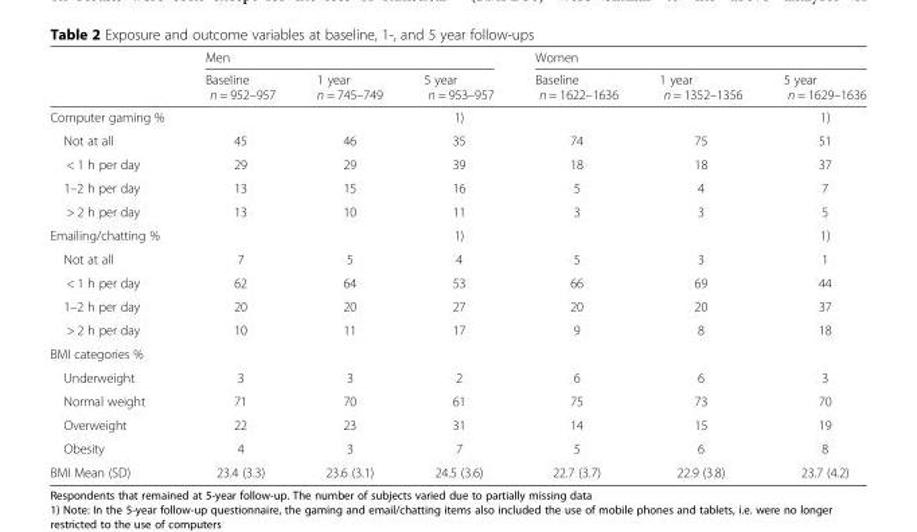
<table><thead><tr><td rowspan="2"></td><td colspan="3">Men</td><td colspan="3">Women</td></tr><tr><td>Baseline n = 952–957</td><td>1 year n = 745–749</td><td>5 year n = 953–957</td><td>Baseline n = 1622–1636</td><td>1 year n = 1352–1356</td><td>5 year n = 1629–1636</td></tr></thead><tbody><tr><td>Computer gaming %</td><td></td><td></td><td>1)</td><td></td><td></td><td>1)</td></tr><tr><td>Not at all</td><td>45</td><td>46</td><td>35</td><td>74</td><td>75</td><td>51</td></tr><tr><td>&lt; 1 h per day</td><td>29</td><td>29</td><td>39</td><td>18</td><td>18</td><td>37</td></tr><tr><td>1–2 h per day</td><td>13</td><td>15</td><td>16</td><td>5</td><td>4</td><td>7</td></tr><tr><td>&gt; 2 h per day</td><td>13</td><td>10</td><td>11</td><td>3</td><td>3</td><td>5</td></tr><tr><td>Emailing/chatting %</td><td></td><td></td><td>1)</td><td></td><td></td><td>1)</td></tr><tr><td>Not at all</td><td>7</td><td>5</td><td>4</td><td>5</td><td>3</td><td>1</td></tr><tr><td>&lt; 1 h per day</td><td>62</td><td>64</td><td>53</td><td>66</td><td>69</td><td>44</td></tr><tr><td>1–2 h per day</td><td>20</td><td>20</td><td>27</td><td>20</td><td>20</td><td>37</td></tr><tr><td>&gt; 2 h per day</td><td>10</td><td>11</td><td>17</td><td>9</td><td>8</td><td>18</td></tr><tr><td colspan="7">BMI categories %</td></tr><tr><td>Underweight</td><td>3</td><td>3</td><td>2</td><td>6</td><td>6</td><td>3</td></tr><tr><td>Normal weight</td><td>71</td><td>70</td><td>61</td><td>75</td><td>73</td><td>70</td></tr><tr><td>Overweight</td><td>22</td><td>23</td><td>31</td><td>14</td><td>15</td><td>19</td></tr><tr><td>Obesity</td><td>4</td><td>3</td><td>7</td><td>5</td><td>6</td><td>8</td></tr><tr><td>BMI Mean (SD)</td><td>23.4 (3.3)</td><td>23.6 (3.1)</td><td>24.5 (3.6)</td><td>22.7 (3.7)</td><td>22.9 (3.8)</td><td>23.7 (4.2)</td></tr></tbody></table>